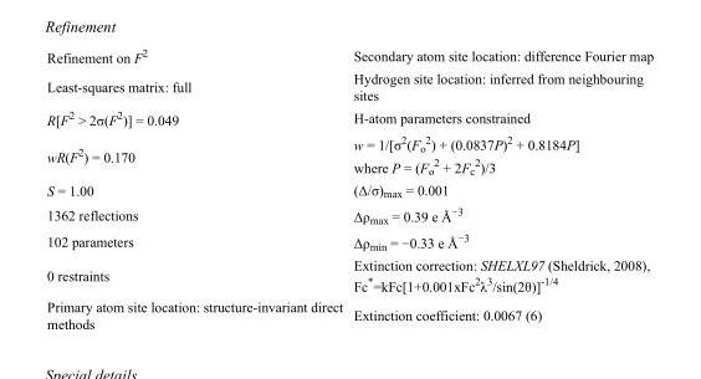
<table><tbody><tr><td>Refinement on F<sup>2</sup></td><td>Secondary atom site location: difference Fourier map</td></tr><tr><td>Least-squares matrix: full</td><td>Hydrogen site location: inferred from neighbouring sites</td></tr><tr><td>R[F<sup>2</sup> &gt; 2σ(F<sup>2</sup>)] = 0.049</td><td>H-atom parameters constrained</td></tr><tr><td>wR(F<sup>2</sup>) = 0.170</td><td>w = 1/[σ<sup>2</sup>(F<sub>o</sub> <sup>2</sup>) + (0.0837P)<sup>2</sup> + 0.8184P] where P = (F<sub>o</sub> <sup>2</sup> + 2F<sub>c</sub> <sup>2</sup>)/3</td></tr><tr><td>S = 1.00</td><td>(Δ/σ)<sub>max</sub> = 0.001</td></tr><tr><td>1362 reflections</td><td>Δρ<sub>max</sub> = 0.39 e Å<sup>−3</sup></td></tr><tr><td>102 parameters</td><td>Δρ<sub>min</sub> = −0.33 e Å<sup>−3</sup></td></tr><tr><td>0 restraints</td><td>Extinction correction: SHELXL97 (Sheldrick, 2008), Fc*=kFc[1+0.001xFc<sup>2</sup>λ<sup>3</sup>/sin(2θ)]<sup>-1/4</sup></td></tr><tr><td>Primary atom site location: structure-invariant direct methods</td><td>Extinction coefficient: 0.0067 (6)</td></tr></tbody></table>